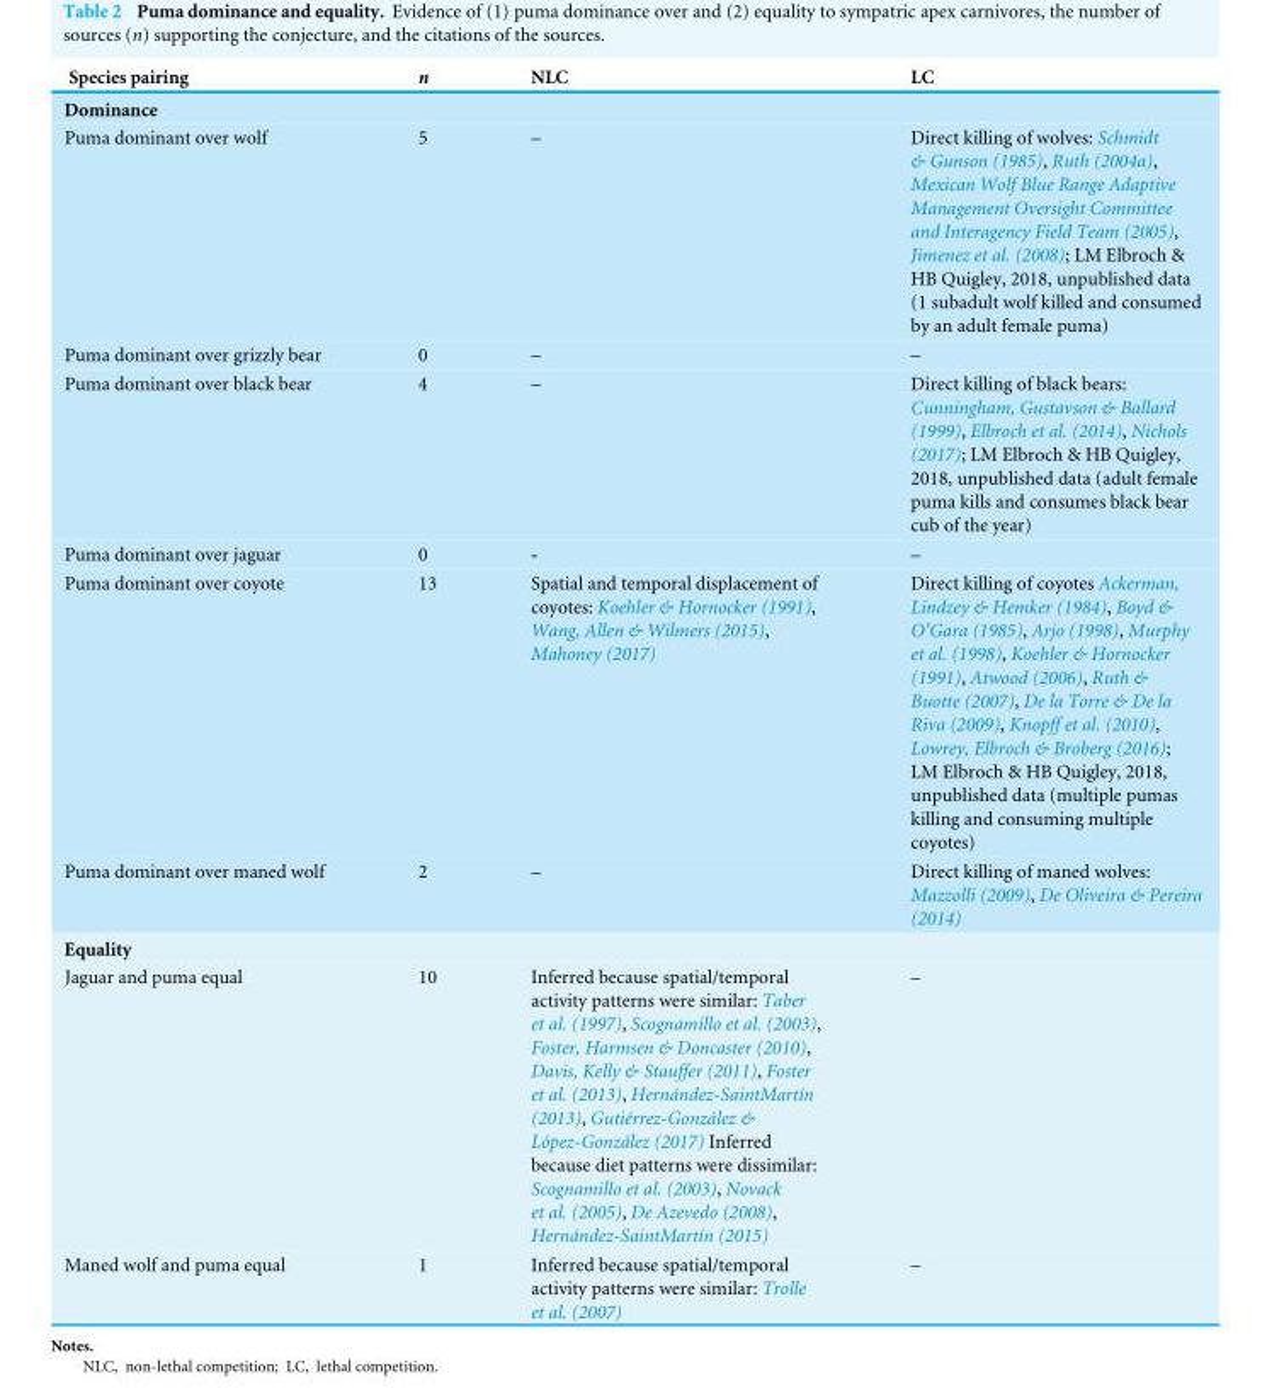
<table><thead><tr><td>Species pairing</td><td>n</td><td>NLC</td><td>LC</td></tr></thead><tbody><tr><td colspan="4">Dominance</td></tr><tr><td>Puma dominant over wolf</td><td>5</td><td>–</td><td>Direct killing of wolves: Schmidt &amp; Gunson (1985), Ruth (2004a), Mexican Wolf Blue Range Adaptive Management Oversight Committee and Interagency Field Team (2005), Jimenez et al. (2008); LM Elbroch &amp; HB Quigley, 2018, unpublished data (1 subadult wolf killed and consumed by an adult female puma)</td></tr><tr><td>Puma dominant over grizzly bear</td><td>0</td><td>–</td><td>–</td></tr><tr><td>Puma dominant over black bear</td><td>4</td><td>–</td><td>Direct killing of black bears: Cunningham, Gustavson &amp; Ballard (1999), Elbroch et al. (2014), Nichols (2017); LM Elbroch &amp; HB Quigley, 2018, unpublished data (adult female puma kills and consumes black bear cub of the year)</td></tr><tr><td>Puma dominant over jaguar</td><td>0</td><td>-</td><td>–</td></tr><tr><td>Puma dominant over coyote</td><td>13</td><td>Spatial and temporal displacement of coyotes: Koehler &amp; Hornocker (1991), Wang, Allen &amp; Wilmers (2015), Mahoney (2017)</td><td>Direct killing of coyotes Ackerman, Lindzey &amp; Hemker (1984), Boyd &amp; O’Gara (1985), Arjo (1998), Murphy et al. (1998), Koehler &amp; Hornocker (1991), Atwood (2006), Ruth &amp; Buotte (2007), De la Torre &amp; De la Riva (2009), Knopff et al. (2010), Lowrey, Elbroch &amp; Broberg (2016); LM Elbroch &amp; HB Quigley, 2018, unpublished data (multiple pumas killing and consuming multiple coyotes)</td></tr><tr><td>Puma dominant over maned wolf</td><td>2</td><td>–</td><td>Direct killing of maned wolves: Mazzolli (2009), De Oliveira &amp; Pereira (2014)</td></tr><tr><td colspan="4">Equality</td></tr><tr><td>Jaguar and puma equal</td><td>10</td><td>Inferred because spatial/temporal activity patterns were similar: Taber et al. (1997), Scognamillo et al. (2003), Foster, Harmsen &amp; Doncaster (2010), Davis, Kelly &amp; Stauffer (2011), Foster et al. (2013), Hernández-SaintMartín (2013), Gutiérrez-González &amp; López-González (2017) Inferred because diet patterns were dissimilar: Scognamillo et al. (2003), Novack et al. (2005), De Azevedo (2008), Hernández-SaintMartín (2015)</td><td>–</td></tr><tr><td>Maned wolf and puma equal</td><td>1</td><td>Inferred because spatial/temporal activity patterns were similar: Trolle et al. (2007)</td><td>–</td></tr></tbody></table>